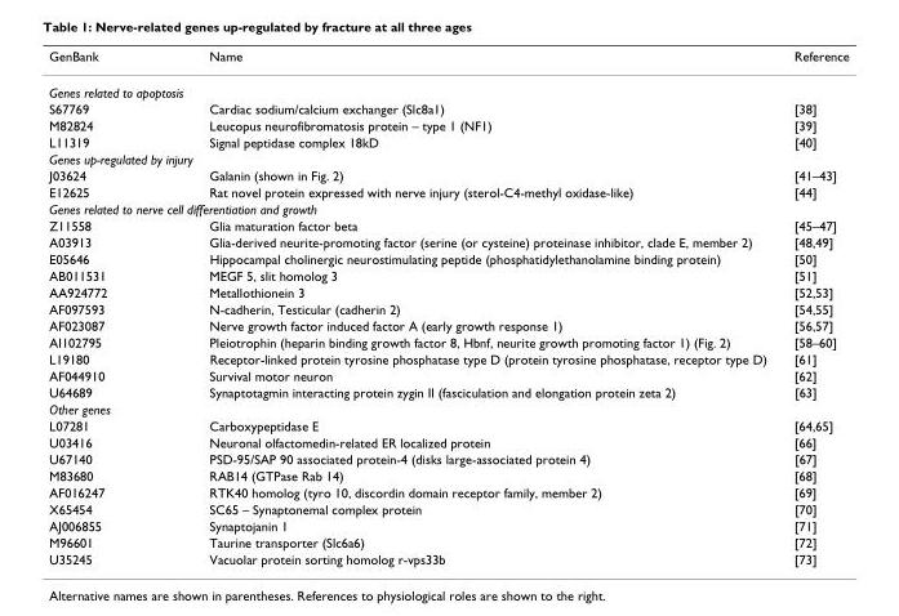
<table><thead><tr><td>GenBank</td><td>Name</td><td>Reference</td></tr></thead><tbody><tr><td colspan="3">Genes related to apoptosis</td></tr><tr><td>S67769</td><td>Cardiac sodium/calcium exchanger (Slc8a1)</td><td>[38]</td></tr><tr><td>M82824</td><td>Leucopus neurofibromatosis protein – type 1 (NF1)</td><td>[39]</td></tr><tr><td>L11319</td><td>Signal peptidase complex 18kD</td><td>[40]</td></tr><tr><td colspan="3">Genes up-regulated by injury</td></tr><tr><td>J03624</td><td>Galanin (shown in Fig. 2)</td><td>[41–43]</td></tr><tr><td>E12625</td><td>Rat novel protein expressed with nerve injury (sterol-C4-methyl oxidase-like)</td><td>[44]</td></tr><tr><td colspan="3">Genes related to nerve cell differentiation and growth</td></tr><tr><td>Z11558</td><td>Glia maturation factor beta</td><td>[45–47]</td></tr><tr><td>A03913</td><td>Glia-derived neurite-promoting factor (serine (or cysteine) proteinase inhibitor, clade E, member 2)</td><td>[48,49]</td></tr><tr><td>E05646</td><td>Hippocampal cholinergic neurostimulating peptide (phosphatidylethanolamine binding protein)</td><td>[50]</td></tr><tr><td>AB011531</td><td>MEGF 5, slit homolog 3</td><td>[51]</td></tr><tr><td>AA924772</td><td>Metallothionein 3</td><td>[52,53]</td></tr><tr><td>AF097593</td><td>N-cadherin, Testicular (cadherin 2)</td><td>[54,55]</td></tr><tr><td>AF023087</td><td>Nerve growth factor induced factor A (early growth response 1)</td><td>[56,57]</td></tr><tr><td>AI102795</td><td>Pleiotrophin (heparin binding growth factor 8, Hbnf, neurite growth promoting factor 1) (Fig. 2)</td><td>[58–60]</td></tr><tr><td>L19180</td><td>Receptor-linked protein tyrosine phosphatase type D (protein tyrosine phosphatase, receptor type D)</td><td>[61]</td></tr><tr><td>AF044910</td><td>Survival motor neuron</td><td>[62]</td></tr><tr><td>U64689</td><td>Synaptotagmin interacting protein zygin II (fasciculation and elongation protein zeta 2)</td><td>[63]</td></tr><tr><td colspan="3">Other genes</td></tr><tr><td>L07281</td><td>Carboxypeptidase E</td><td>[64,65]</td></tr><tr><td>U03416</td><td>Neuronal olfactomedin-related ER localized protein</td><td>[66]</td></tr><tr><td>U67140</td><td>PSD-95/SAP 90 associated protein-4 (disks large-associated protein 4)</td><td>[67]</td></tr><tr><td>M83680</td><td>RAB14 (GTPase Rab 14)</td><td>[68]</td></tr><tr><td>AF016247</td><td>RTK40 homolog (tyro 10, discordin domain receptor family, member 2)</td><td>[69]</td></tr><tr><td>X65454</td><td>SC65 – Synaptonemal complex protein</td><td>[70]</td></tr><tr><td>AJ006855</td><td>Synaptojanin 1</td><td>[71]</td></tr><tr><td>M96601</td><td>Taurine transporter (Slc6a6)</td><td>[72]</td></tr><tr><td>U35245</td><td>Vacuolar protein sorting homolog r-vps33b</td><td>[73]</td></tr></tbody></table>